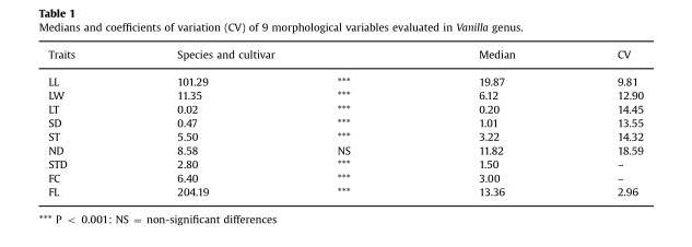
<table><thead><tr><td rowspan="2">Traits LL</td><td colspan="2">Species and cultivar</td><td rowspan="2">Median 19.87</td><td rowspan="2">CV 9.81</td></tr><tr><td>101.29</td><td>***</td></tr></thead><tbody><tr><td>LW</td><td>11.35</td><td>***</td><td>6.12</td><td>12.90</td></tr><tr><td>LT</td><td>0.02</td><td>***</td><td>0.20</td><td>14.45</td></tr><tr><td>SD</td><td>0.47</td><td>***</td><td>1.01</td><td>13.55</td></tr><tr><td>ST</td><td>5.50</td><td>***</td><td>3.22</td><td>14.32</td></tr><tr><td>ND</td><td>8.58</td><td>NS</td><td>11.82</td><td>18.59</td></tr><tr><td>STD</td><td>2.80</td><td>***</td><td>1.50</td><td>–</td></tr><tr><td>FC</td><td>6.40</td><td>***</td><td>3.00</td><td>–</td></tr><tr><td>FL</td><td>204.19</td><td>***</td><td>13.36</td><td>2.96</td></tr></tbody></table>